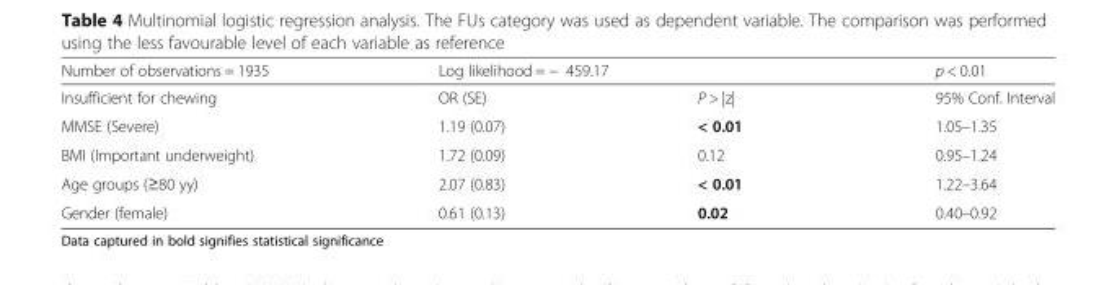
<table><thead><tr><td rowspan="2">Number of observations = 1935 Insufficient for chewing</td><td colspan="2">Log likelihood = − 459.17</td><td rowspan="2">p &lt; 0.01 95% Conf. Interval</td></tr><tr><td>OR (SE)</td><td>P &gt; |z|</td></tr></thead><tbody><tr><td>MMSE (Severe)</td><td>1.19 (0.07)</td><td>&lt; 0.01</td><td>1.05–1.35</td></tr><tr><td>BMI (Important underweight)</td><td>1.72 (0.09)</td><td>0.12</td><td>0.95–1.24</td></tr><tr><td>Age groups (≥80 yy)</td><td>2.07 (0.83)</td><td>&lt; 0.01</td><td>1.22–3.64</td></tr><tr><td>Gender (female)</td><td>0.61 (0.13)</td><td>0.02</td><td>0.40–0.92</td></tr></tbody></table>